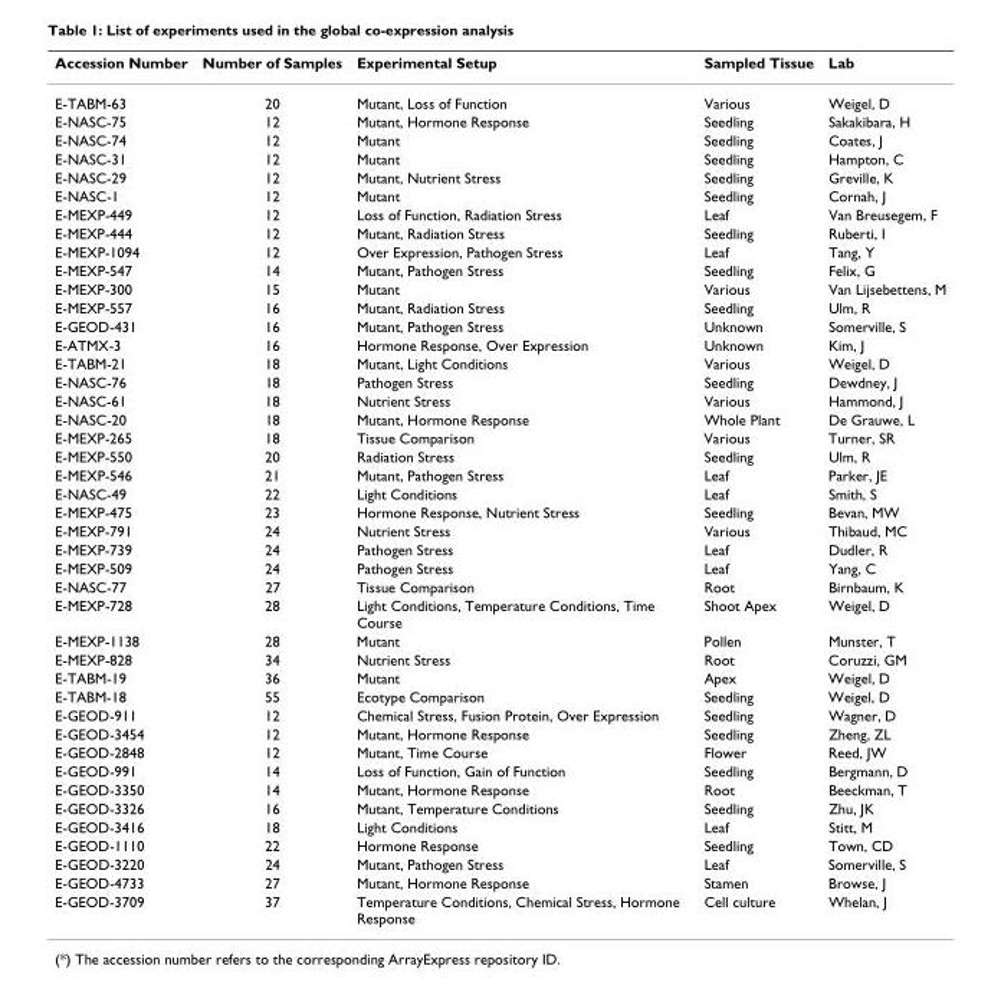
<table><thead><tr><td>Accession Number</td><td>Number of Samples</td><td>Experimental Setup</td><td>Sampled Tissue</td><td>Lab</td></tr></thead><tbody><tr><td>E-TABM-63</td><td>20</td><td>Mutant, Loss of Function</td><td>Various</td><td>Weigel, D</td></tr><tr><td>E-NASC-75</td><td>12</td><td>Mutant, Hormone Response</td><td>Seedling</td><td>Sakakibara, H</td></tr><tr><td>E-NASC-74</td><td>12</td><td>Mutant</td><td>Seedling</td><td>Coates, J</td></tr><tr><td>E-NASC-31</td><td>12</td><td>Mutant</td><td>Seedling</td><td>Hampton, C</td></tr><tr><td>E-NASC-29</td><td>12</td><td>Mutant, Nutrient Stress</td><td>Seedling</td><td>Greville, K</td></tr><tr><td>E-NASC-1</td><td>12</td><td>Mutant</td><td>Seedling</td><td>Cornah, J</td></tr><tr><td>E-MEXP-449</td><td>12</td><td>Loss of Function, Radiation Stress</td><td>Leaf</td><td>Van Breusegem, F</td></tr><tr><td>E-MEXP-444</td><td>12</td><td>Mutant, Radiation Stress</td><td>Seedling</td><td>Ruberti, I</td></tr><tr><td>E-MEXP-1094</td><td>12</td><td>Over Expression, Pathogen Stress</td><td>Leaf</td><td>Tang, Y</td></tr><tr><td>E-MEXP-547</td><td>14</td><td>Mutant, Pathogen Stress</td><td>Seedling</td><td>Felix, G</td></tr><tr><td>E-MEXP-300</td><td>15</td><td>Mutant</td><td>Various</td><td>Van Lijsebettens, M</td></tr><tr><td>E-MEXP-557</td><td>16</td><td>Mutant, Radiation Stress</td><td>Seedling</td><td>Ulm, R</td></tr><tr><td>E-GEOD-431</td><td>16</td><td>Mutant, Pathogen Stress</td><td>Unknown</td><td>Somerville, S</td></tr><tr><td>E-ATMX-3</td><td>16</td><td>Hormone Response, Over Expression</td><td>Unknown</td><td>Kim, J</td></tr><tr><td>E-TABM-21</td><td>18</td><td>Mutant, Light Conditions</td><td>Various</td><td>Weigel, D</td></tr><tr><td>E-NASC-76</td><td>18</td><td>Pathogen Stress</td><td>Seedling</td><td>Dewdney, J</td></tr><tr><td>E-NASC-61</td><td>18</td><td>Nutrient Stress</td><td>Various</td><td>Hammond, J</td></tr><tr><td>E-NASC-20</td><td>18</td><td>Mutant, Hormone Response</td><td>Whole Plant</td><td>De Grauwe, L</td></tr><tr><td>E-MEXP-265</td><td>18</td><td>Tissue Comparison</td><td>Various</td><td>Turner, SR</td></tr><tr><td>E-MEXP-550</td><td>20</td><td>Radiation Stress</td><td>Seedling</td><td>Ulm, R</td></tr><tr><td>E-MEXP-546</td><td>21</td><td>Mutant, Pathogen Stress</td><td>Leaf</td><td>Parker, JE</td></tr><tr><td>E-NASC-49</td><td>22</td><td>Light Conditions</td><td>Leaf</td><td>Smith, S</td></tr><tr><td>E-MEXP-475</td><td>23</td><td>Hormone Response, Nutrient Stress</td><td>Seedling</td><td>Bevan, MW</td></tr><tr><td>E-MEXP-791</td><td>24</td><td>Nutrient Stress</td><td>Various</td><td>Thibaud, MC</td></tr><tr><td>E-MEXP-739</td><td>24</td><td>Pathogen Stress</td><td>Leaf</td><td>Dudler, R</td></tr><tr><td>E-MEXP-509</td><td>24</td><td>Pathogen Stress</td><td>Leaf</td><td>Yang, C</td></tr><tr><td>E-NASC-77</td><td>27</td><td>Tissue Comparison</td><td>Root</td><td>Birnbaum, K</td></tr><tr><td>E-MEXP-728</td><td>28</td><td>Light Conditions, Temperature Conditions, Time Course</td><td>Shoot Apex</td><td>Weigel, D</td></tr><tr><td>E-MEXP-1138</td><td>28</td><td>Mutant</td><td>Pollen</td><td>Munster, T</td></tr><tr><td>E-MEXP-828</td><td>34</td><td>Nutrient Stress</td><td>Root</td><td>Coruzzi, GM</td></tr><tr><td>E-TABM-19</td><td>36</td><td>Mutant</td><td>Apex</td><td>Weigel, D</td></tr><tr><td>E-TABM-18</td><td>55</td><td>Ecotype Comparison</td><td>Seedling</td><td>Weigel, D</td></tr><tr><td>E-GEOD-911</td><td>12</td><td>Chemical Stress, Fusion Protein, Over Expression</td><td>Seedling</td><td>Wagner, D</td></tr><tr><td>E-GEOD-3454</td><td>12</td><td>Mutant, Hormone Response</td><td>Seedling</td><td>Zheng, ZL</td></tr><tr><td>E-GEOD-2848</td><td>12</td><td>Mutant, Time Course</td><td>Flower</td><td>Reed, JW</td></tr><tr><td>E-GEOD-991</td><td>14</td><td>Loss of Function, Gain of Function</td><td>Seedling</td><td>Bergmann, D</td></tr><tr><td>E-GEOD-3350</td><td>14</td><td>Mutant, Hormone Response</td><td>Root</td><td>Beeckman, T</td></tr><tr><td>E-GEOD-3326</td><td>16</td><td>Mutant, Temperature Conditions</td><td>Seedling</td><td>Zhu, JK</td></tr><tr><td>E-GEOD-3416</td><td>18</td><td>Light Conditions</td><td>Leaf</td><td>Stitt, M</td></tr><tr><td>E-GEOD-1110</td><td>22</td><td>Hormone Response</td><td>Seedling</td><td>Town, CD</td></tr><tr><td>E-GEOD-3220</td><td>24</td><td>Mutant, Pathogen Stress</td><td>Leaf</td><td>Somerville, S</td></tr><tr><td>E-GEOD-4733</td><td>27</td><td>Mutant, Hormone Response</td><td>Stamen</td><td>Browse, J</td></tr><tr><td>E-GEOD-3709</td><td>37</td><td>Temperature Conditions, Chemical Stress, Hormone Response</td><td>Cell culture</td><td>Whelan, J</td></tr></tbody></table>